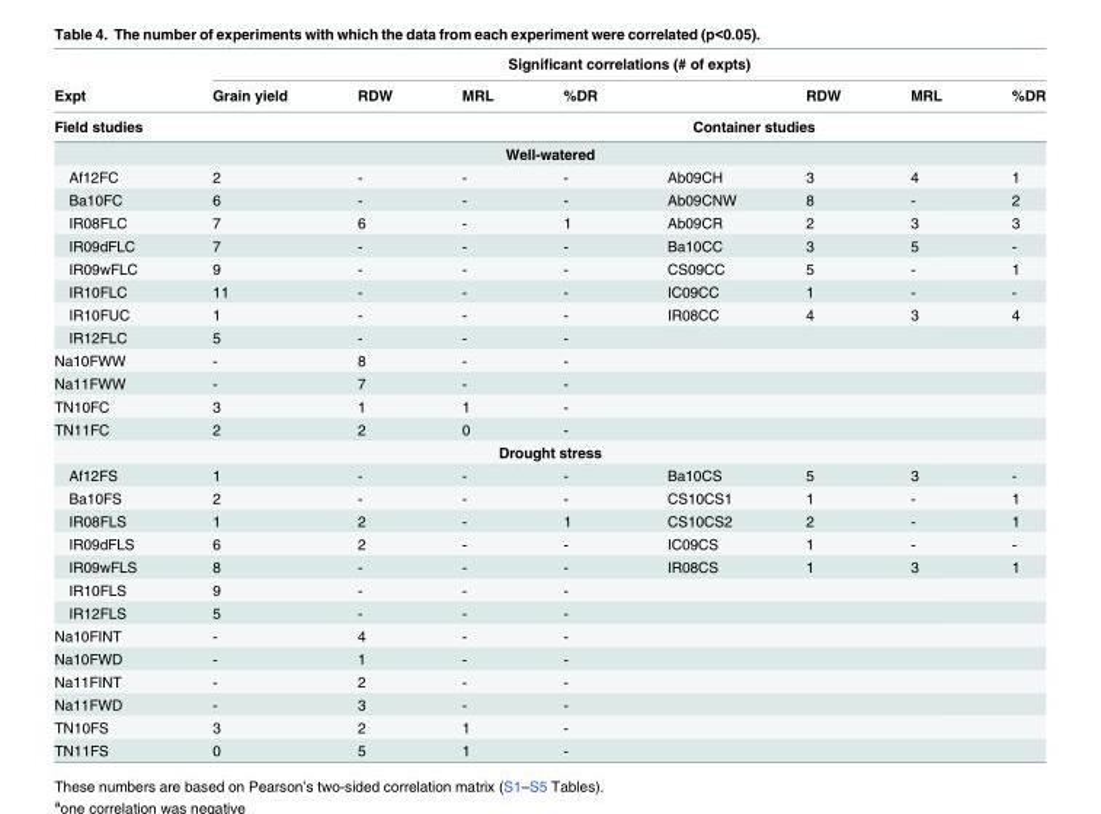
<table><thead><tr><td rowspan="3">Expt Field studies</td><td colspan="8">Significant correlations (# of expts)</td></tr><tr><td rowspan="2">Grain yield</td><td rowspan="2">RDW</td><td rowspan="2">MRL</td><td rowspan="2">%DR</td><td></td><td>RDW</td><td rowspan="2">MRL</td><td rowspan="2">%DR</td></tr><tr><td colspan="2">Container studies</td></tr></thead><tbody><tr><td colspan="9">Well-watered</td></tr><tr><td>Af12FC</td><td>2</td><td>-</td><td>-</td><td>-</td><td>Ab09CH</td><td>3</td><td>4</td><td>1</td></tr><tr><td>Ba10FC</td><td>6</td><td>-</td><td>-</td><td>-</td><td>Ab09CNW</td><td>8</td><td>-</td><td>2</td></tr><tr><td>IR08FLC</td><td>7</td><td>6</td><td>-</td><td>1</td><td>Ab09CR</td><td>2</td><td>3</td><td>3</td></tr><tr><td>IR09dFLC</td><td>7</td><td>-</td><td>-</td><td>-</td><td>Ba10CC</td><td>3</td><td>5</td><td>-</td></tr><tr><td>IR09wFLC</td><td>9</td><td>-</td><td>-</td><td>-</td><td>CS09CC</td><td>5</td><td>-</td><td>1</td></tr><tr><td>IR10FLC</td><td>11</td><td>-</td><td>-</td><td>-</td><td>IC09CC</td><td>1</td><td>-</td><td>-</td></tr><tr><td>IR10FUC</td><td>1</td><td>-</td><td>-</td><td>-</td><td>IR08CC</td><td>4</td><td>3</td><td>4</td></tr><tr><td>IR12FLC</td><td>5</td><td>-</td><td>-</td><td>-</td><td></td><td></td><td></td><td></td></tr><tr><td>Na10FWW</td><td>-</td><td>8</td><td>-</td><td>-</td><td></td><td></td><td></td><td></td></tr><tr><td>Na11FWW</td><td>-</td><td>7</td><td>-</td><td>-</td><td></td><td></td><td></td><td></td></tr><tr><td>TN10FC</td><td>3</td><td>1</td><td>1</td><td>-</td><td></td><td></td><td></td><td></td></tr><tr><td>TN11FC</td><td>2</td><td>2</td><td>0</td><td>-</td><td></td><td></td><td></td><td></td></tr><tr><td colspan="9">Drought stress</td></tr><tr><td>Af12FS</td><td>1</td><td>-</td><td>-</td><td>-</td><td>Ba10CS</td><td>5</td><td>3</td><td>-</td></tr><tr><td>Ba10FS</td><td>2</td><td>-</td><td>-</td><td>-</td><td>CS10CS1</td><td>1</td><td>-</td><td>1</td></tr><tr><td>IR08FLS</td><td>1</td><td>2</td><td>-</td><td>1</td><td>CS10CS2</td><td>2</td><td>-</td><td>1</td></tr><tr><td>IR09dFLS</td><td>6</td><td>2</td><td>-</td><td>-</td><td>IC09CS</td><td>1</td><td>-</td><td>-</td></tr><tr><td>IR09wFLS</td><td>8</td><td>-</td><td>-</td><td>-</td><td>IR08CS</td><td>1</td><td>3</td><td>1</td></tr><tr><td>IR10FLS</td><td>9</td><td>-</td><td>-</td><td>-</td><td></td><td></td><td></td><td></td></tr><tr><td>IR12FLS</td><td>5</td><td>-</td><td>-</td><td>-</td><td></td><td></td><td></td><td></td></tr><tr><td>Na10FINT</td><td>-</td><td>4</td><td>-</td><td>-</td><td></td><td></td><td></td><td></td></tr><tr><td>Na10FWD</td><td>-</td><td>1</td><td>-</td><td>-</td><td></td><td></td><td></td><td></td></tr><tr><td>Na11FINT</td><td>-</td><td>2</td><td>-</td><td>-</td><td></td><td></td><td></td><td></td></tr><tr><td>Na11FWD</td><td>-</td><td>3</td><td>-</td><td>-</td><td></td><td></td><td></td><td></td></tr><tr><td>TN10FS</td><td>3</td><td>2</td><td>1</td><td>-</td><td></td><td></td><td></td><td></td></tr><tr><td>TN11FS</td><td>0</td><td>5</td><td>1</td><td>-</td><td></td><td></td><td></td><td></td></tr></tbody></table>